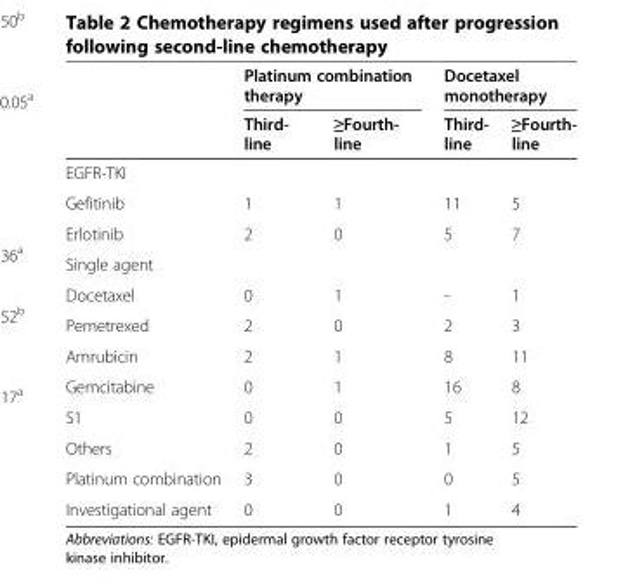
<table><thead><tr><td rowspan="2"></td><td colspan="2">Platinum combination therapy</td><td colspan="2">Docetaxel monotherapy</td></tr><tr><td>Third- line</td><td>≥Fourth- line</td><td>Third- line</td><td>≥Fourth- line</td></tr></thead><tbody><tr><td colspan="5">EGFR-TKI</td></tr><tr><td>Gefitinib</td><td>1</td><td>1</td><td>11</td><td>5</td></tr><tr><td>Erlotinib</td><td>2</td><td>0</td><td>5</td><td>7</td></tr><tr><td colspan="5">Single agent</td></tr><tr><td>Docetaxel</td><td>0</td><td>1</td><td>-</td><td>1</td></tr><tr><td>Pemetrexed</td><td>2</td><td>0</td><td>2</td><td>3</td></tr><tr><td>Amrubicin</td><td>2</td><td>1</td><td>8</td><td>11</td></tr><tr><td>Gemcitabine</td><td>0</td><td>1</td><td>16</td><td>8</td></tr><tr><td>S1</td><td>0</td><td>0</td><td>5</td><td>12</td></tr><tr><td>Others</td><td>2</td><td>0</td><td>1</td><td>5</td></tr><tr><td>Platinum combination</td><td>3</td><td>0</td><td>0</td><td>5</td></tr><tr><td>Investigational agent</td><td>0</td><td>0</td><td>1</td><td>4</td></tr></tbody></table>